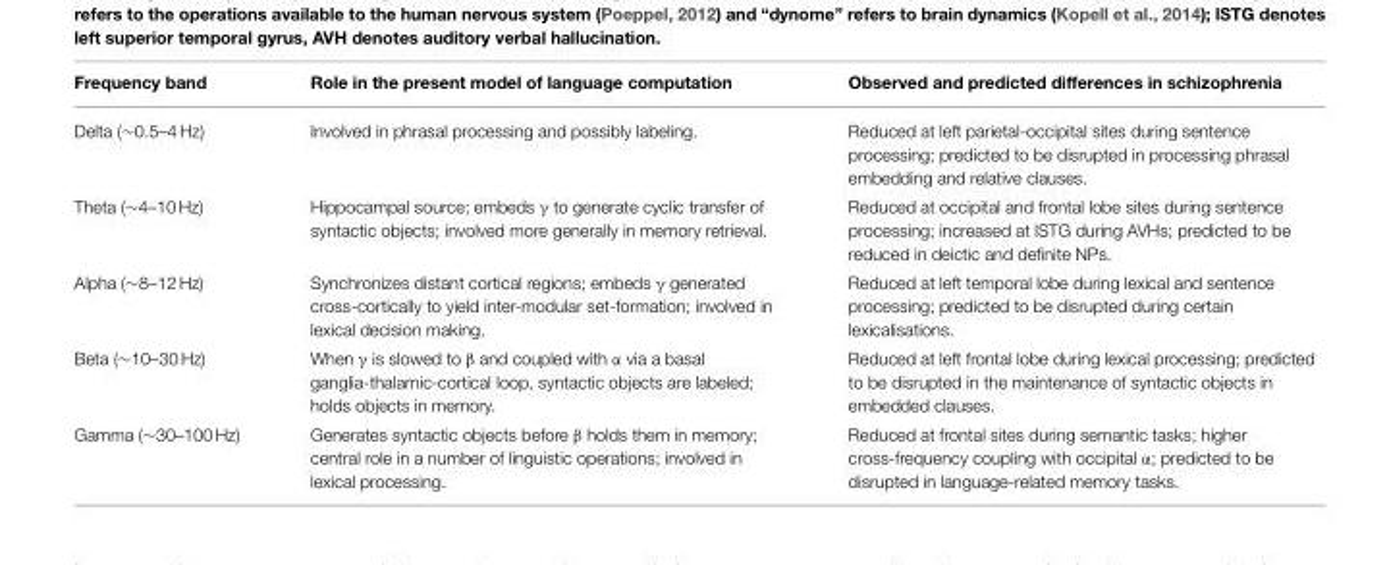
<table><thead><tr><td>Frequency band</td><td>Role in the present model of language computation</td><td>Observed and predicted differences in schizophrenia</td></tr></thead><tbody><tr><td>Delta (∼0.5–4 Hz)</td><td>Involved in phrasal processing and possibly labeling.</td><td>Reduced at left parietal-occipital sites during sentence processing; predicted to be disrupted in processing phrasal embedding and relative clauses.</td></tr><tr><td>Theta (∼4–10 Hz)</td><td>Hippocampal source; embeds γ to generate cyclic transfer of syntactic objects; involved more generally in memory retrieval.</td><td>Reduced at occipital and frontal lobe sites during sentence processing; increased at lSTG during AVHs; predicted to be reduced in deictic and definite NPs.</td></tr><tr><td>Alpha (∼8–12 Hz)</td><td>Synchronizes distant cortical regions; embeds γ generated cross-cortically to yield inter-modular set-formation; involved in lexical decision making.</td><td>Reduced at left temporal lobe during lexical and sentence processing; predicted to be disrupted during certain lexicalisations.</td></tr><tr><td>Beta (∼10–30 Hz)</td><td>When γ is slowed to β and coupled with α via a basal ganglia-thalamic-cortical loop, syntactic objects are labeled; holds objects in memory.</td><td>Reduced at left frontal lobe during lexical processing; predicted to be disrupted in the maintenance of syntactic objects in embedded clauses.</td></tr><tr><td>Gamma (∼30–100 Hz)</td><td>Generates syntactic objects before β holds them in memory; central role in a number of linguistic operations; involved in lexical processing.</td><td>Reduced at frontal sites during semantic tasks; higher cross-frequency coupling with occipital α; predicted to be disrupted in language-related memory tasks.</td></tr></tbody></table>